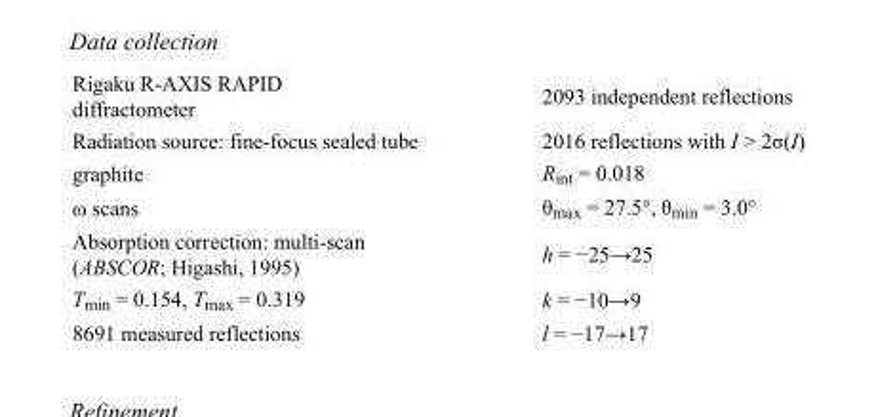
<table><tbody><tr><td>Rigaku R-AXIS RAPID diffractometer</td><td>2093 independent reflections</td></tr><tr><td>Radiation source: fine-focus sealed tube</td><td>2016 reflections with I &gt; 2σ(I)</td></tr><tr><td>graphite</td><td>R<sub>int</sub> = 0.018</td></tr><tr><td>ω scans</td><td>θ<sub>max</sub> = 27.5°, θ<sub>min</sub> = 3.0°</td></tr><tr><td>Absorption correction: multi-scan (ABSCOR; Higashi, 1995)</td><td>h = −25→25</td></tr><tr><td>T<sub>min</sub> = 0.154, T<sub>max</sub> = 0.319</td><td>k = −10→9</td></tr><tr><td>8691 measured reflections</td><td>l = −17→17</td></tr></tbody></table>